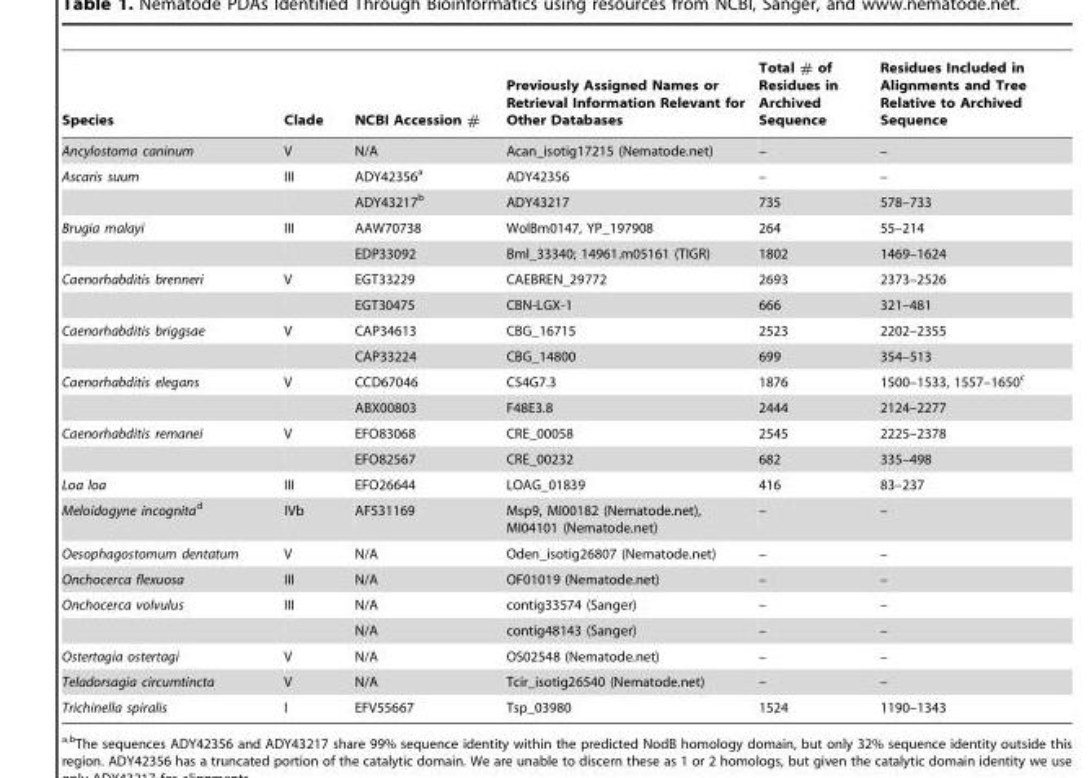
<table><thead><tr><td>Species</td><td>Clade</td><td>NCBI Accession #</td><td>Previously Assigned Names or Retrieval Information Relevant for Other Databases</td><td>Total # of Residues in Archived Sequence</td><td>Residues Included in Alignments and Tree Relative to Archived Sequence</td></tr></thead><tbody><tr><td>Ancylostoma caninum</td><td>V</td><td>N/A</td><td>Acan_isotig17215 (Nematode.net)</td><td>–</td><td>–</td></tr><tr><td rowspan="2">Ascaris suum</td><td>III</td><td>ADY42356<sup>a</sup></td><td>ADY42356</td><td>–</td><td>–</td></tr><tr><td></td><td>ADY43217<sup>b</sup></td><td>ADY43217</td><td>735</td><td>578–733</td></tr><tr><td rowspan="2">Brugia malayi</td><td>III</td><td>AAW70738</td><td>WolBm0147, YP_197908</td><td>264</td><td>55–214</td></tr><tr><td></td><td>EDP33092</td><td>Bml_33340; 14961.m05161 (TIGR)</td><td>1802</td><td>1469–1624</td></tr><tr><td rowspan="2">Caenorhabditis brenneri</td><td>V</td><td>EGT33229</td><td>CAEBREN_29772</td><td>2693</td><td>2373–2526</td></tr><tr><td></td><td>EGT30475</td><td>CBN-LGX-1</td><td>666</td><td>321–481</td></tr><tr><td rowspan="2">Caenorhabditis briggsae</td><td>V</td><td>CAP34613</td><td>CBG_16715</td><td>2523</td><td>2202–2355</td></tr><tr><td></td><td>CAP33224</td><td>CBG_14800</td><td>699</td><td>354–513</td></tr><tr><td rowspan="2">Caenorhabditis elegans</td><td>V</td><td>CCD67046</td><td>C54G7.3</td><td>1876</td><td>1500–1533, 1557–1650<sup>c</sup></td></tr><tr><td></td><td>ABX00803</td><td>F48E3.8</td><td>2444</td><td>2124–2277</td></tr><tr><td rowspan="2">Caenorhabditis remanei</td><td>V</td><td>EFO83068</td><td>CRE_00058</td><td>2545</td><td>2225–2378</td></tr><tr><td></td><td>EFO82567</td><td>CRE_00232</td><td>682</td><td>335–498</td></tr><tr><td>Loa loa</td><td>III</td><td>EFO26644</td><td>LOAG_01839</td><td>416</td><td>83–237</td></tr><tr><td>Meloidogyne incognitad</td><td>IVb</td><td>AF531169</td><td>Msp9, MI00182 (Nematode.net), MI04101 (Nematode.net)</td><td>–</td><td>–</td></tr><tr><td>Oesophagostomum dentatum</td><td>V</td><td>N/A</td><td>Oden_isotig26807 (Nematode.net)</td><td>–</td><td>–</td></tr><tr><td>Onchocerca flexuosa</td><td>III</td><td>N/A</td><td>OF01019 (Nematode.net)</td><td>–</td><td>–</td></tr><tr><td rowspan="2">Onchocerca volvulus</td><td>III</td><td>N/A</td><td>contig33574 (Sanger)</td><td>–</td><td>–</td></tr><tr><td></td><td>N/A</td><td>contig48143 (Sanger)</td><td>–</td><td>–</td></tr><tr><td>Ostertagia ostertagi</td><td>V</td><td>N/A</td><td>OS02548 (Nematode.net)</td><td>–</td><td>–</td></tr><tr><td>Teladorsagia circumtincta</td><td>V</td><td>N/A</td><td>Tcir_isotig26540 (Nematode.net)</td><td>–</td><td>–</td></tr><tr><td>Trichinella spiralis</td><td>I</td><td>EFV55667</td><td>Tsp_03980</td><td>1524</td><td>1190–1343</td></tr></tbody></table>